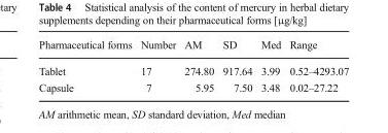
<table><thead><tr><td>Pharmaceutical forms</td><td>Number</td><td>AM</td><td>SD</td><td>Med</td><td>Range</td></tr></thead><tbody><tr><td>Tablet</td><td>17</td><td>274.80</td><td>917.64</td><td>3.99</td><td>0.52–4293.07</td></tr><tr><td>Capsule</td><td>7</td><td>5.95</td><td>7.50</td><td>3.48</td><td>0.02–27.22</td></tr></tbody></table>